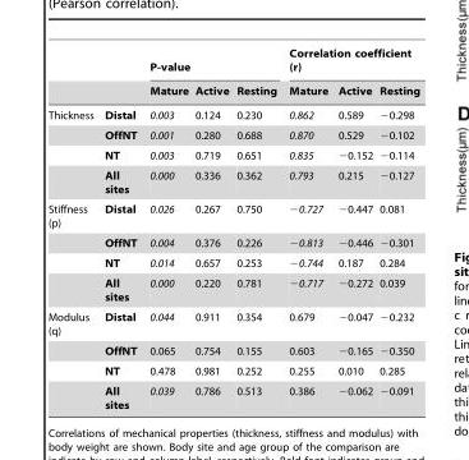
<table><thead><tr><td rowspan="2"></td><td rowspan="2"></td><td colspan="3">P-value</td><td colspan="3">Correlation coefficient (r)</td></tr><tr><td>Mature</td><td>Active</td><td>Resting</td><td>Mature</td><td>Active</td><td>Resting</td></tr></thead><tbody><tr><td rowspan="4">Thickness</td><td>Distal</td><td>0.003</td><td>0.124</td><td>0.230</td><td>0.862</td><td>0.589</td><td>−0.298</td></tr><tr><td>OffNT</td><td>0.001</td><td>0.280</td><td>0.688</td><td>0.870</td><td>0.529</td><td>−0.102</td></tr><tr><td>NT</td><td>0.003</td><td>0.719</td><td>0.651</td><td>0.835</td><td>−0.152</td><td>−0.114</td></tr><tr><td>All sites</td><td>0.000</td><td>0.336</td><td>0.362</td><td>0.793</td><td>0.215</td><td>−0.127</td></tr><tr><td rowspan="4">Stiffness (p)</td><td>Distal</td><td>0.026</td><td>0.267</td><td>0.750</td><td>−0.727</td><td>−0.447</td><td>0.081</td></tr><tr><td>OffNT</td><td>0.004</td><td>0.376</td><td>0.226</td><td>−0.813</td><td>−0.446</td><td>−0.301</td></tr><tr><td>NT</td><td>0.014</td><td>0.657</td><td>0.253</td><td>−0.744</td><td>0.187</td><td>0.284</td></tr><tr><td>All sites</td><td>0.000</td><td>0.220</td><td>0.781</td><td>−0.717</td><td>−0.272</td><td>0.039</td></tr><tr><td rowspan="4">Modulus (q)</td><td>Distal</td><td>0.044</td><td>0.911</td><td>0.354</td><td>0.679</td><td>−0.047</td><td>−0.232</td></tr><tr><td>OffNT</td><td>0.065</td><td>0.754</td><td>0.155</td><td>0.603</td><td>−0.165</td><td>−0.350</td></tr><tr><td>NT</td><td>0.478</td><td>0.981</td><td>0.252</td><td>0.255</td><td>0.010</td><td>0.285</td></tr><tr><td>All sites</td><td>0.039</td><td>0.786</td><td>0.513</td><td>0.386</td><td>−0.062</td><td>−0.091</td></tr></tbody></table>